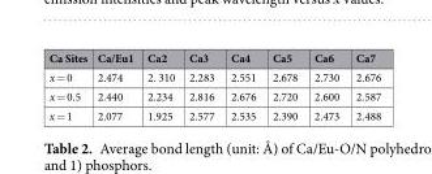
<table><thead><tr><td>Ca Sites</td><td>Ca/Eu1</td><td>Ca2</td><td>Ca3</td><td>Ca4</td><td>Ca5</td><td>Ca6</td><td>Ca7</td></tr></thead><tbody><tr><td>x = 0</td><td>2.474</td><td>2. 310</td><td>2.283</td><td>2.551</td><td>2.678</td><td>2.730</td><td>2.676</td></tr><tr><td>x = 0.5</td><td>2.440</td><td>2.234</td><td>2.816</td><td>2.676</td><td>2.720</td><td>2.600</td><td>2.587</td></tr><tr><td>x = 1</td><td>2.077</td><td>1.925</td><td>2.577</td><td>2.535</td><td>2.390</td><td>2.473</td><td>2.488</td></tr></tbody></table>